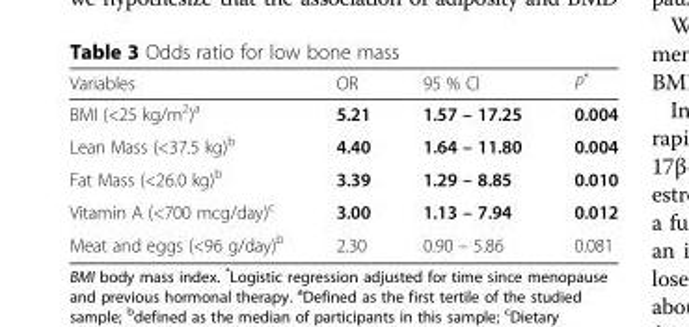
<table><thead><tr><td>Variables</td><td>OR</td><td>95 % CI</td><td>P*</td></tr></thead><tbody><tr><td>BMI (&lt;25 kg/m<sup>2</sup>)<sup>a</sup></td><td>5.21</td><td>1.57 – 17.25</td><td>0.004</td></tr><tr><td>Lean Mass (&lt;37.5 kg)<sup>b</sup></td><td>4.40</td><td>1.64 – 11.80</td><td>0.004</td></tr><tr><td>Fat Mass (&lt;26.0 kg)<sup>b</sup></td><td>3.39</td><td>1.29 – 8.85</td><td>0.010</td></tr><tr><td>Vitamin A (&lt;700 mcg/day)<sup>c</sup></td><td>3.00</td><td>1.13 – 7.94</td><td>0.012</td></tr><tr><td>Meat and eggs (&lt;96 g/day)<sup>b</sup></td><td>2.30</td><td>0.90 – 5.86</td><td>0.081</td></tr></tbody></table>